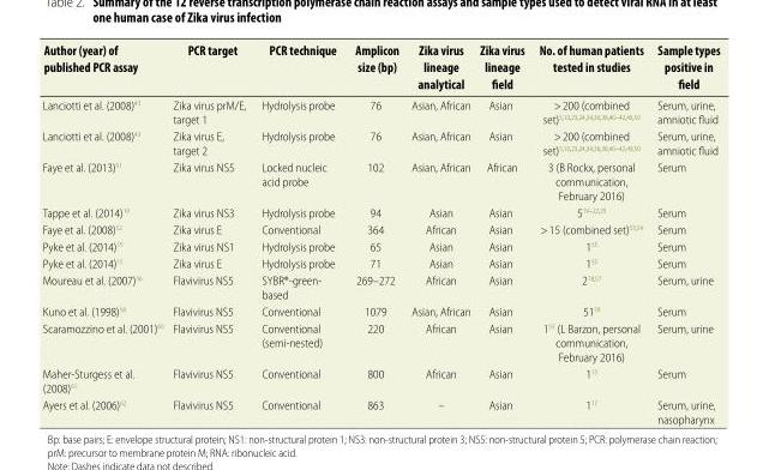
<table><thead><tr><td>Author (year) of published PCR assay</td><td>PCR target</td><td>PCR technique</td><td>Amplicon size (bp)</td><td>Zika virus lineage analytical</td><td>Zika virus lineage field</td><td>No. of human patients tested in studies</td><td>Sample types positive in field</td></tr></thead><tbody><tr><td>Lanciotti et al. (2008)<sup>43</sup></td><td>Zika virus prM/E, target 1</td><td>Hydrolysis probe</td><td>76</td><td>Asian, African</td><td>Asian</td><td>&gt; 200 (combined set)<sup>5,10,23,24,34,36,38,40–42,49,50</sup></td><td>Serum, urine, amniotic fluid</td></tr><tr><td>Lanciotti et al. (2008)<sup>43</sup></td><td>Zika virus E, target 2</td><td>Hydrolysis probe</td><td>76</td><td>Asian, African</td><td>Asian</td><td>&gt; 200 (combined set)<sup>5,10,23,24,34,36,38,40–42,49,50</sup></td><td>Serum, urine, amniotic fluid</td></tr><tr><td>Faye et al. (2013)<sup>51</sup></td><td>Zika virus NS5</td><td>Locked nucleic acid probe</td><td>102</td><td>Asian, African</td><td>African</td><td>3 (B Rockx, personal communication, February 2016)</td><td>Serum</td></tr><tr><td>Tappe et al. (2014)<sup>19</sup></td><td>Zika virus NS3</td><td>Hydrolysis probe</td><td>94</td><td>Asian</td><td>Asian</td><td>5<sup>19–22,25</sup></td><td>Serum</td></tr><tr><td>Faye et al. (2008)<sup>52</sup></td><td>Zika virus E</td><td>Conventional</td><td>364</td><td>African</td><td>Asian</td><td>&gt; 15 (combined set)<sup>53,54</sup></td><td>Serum</td></tr><tr><td>Pyke et al. (2014)<sup>15</sup></td><td>Zika virus NS1</td><td>Hydrolysis probe</td><td>65</td><td>Asian</td><td>Asian</td><td>1<sup>55</sup></td><td>Serum</td></tr><tr><td>Pyke et al. (2014)<sup>15</sup></td><td>Zika virus E</td><td>Hydrolysis probe</td><td>71</td><td>Asian</td><td>Asian</td><td>1<sup>55</sup></td><td>Serum</td></tr><tr><td>Moureau et al. (2007)<sup>56</sup></td><td>Flavivirus NS5</td><td>SYBR®-green- based</td><td>269–272</td><td>African</td><td>Asian</td><td>2<sup>18,57</sup></td><td>Serum, urine</td></tr><tr><td>Kuno et al. (1998)<sup>58</sup></td><td>Flavivirus NS5</td><td>Conventional</td><td>1079</td><td>Asian, African</td><td>Asian</td><td>51<sup>59</sup></td><td>Serum</td></tr><tr><td>Scaramozzino et al. (2001)<sup>60</sup></td><td>Flavivirus NS5</td><td>Conventional (semi-nested)</td><td>220</td><td>African</td><td>Asian</td><td>1<sup>55</sup> (L Barzon, personal communication, February 2016)</td><td>Serum, urine</td></tr><tr><td>Maher-Sturgess et al. (2008)<sup>61</sup></td><td>Flavivirus NS5</td><td>Conventional</td><td>800</td><td>African</td><td>Asian</td><td>1<sup>15</sup></td><td>Serum</td></tr><tr><td>Ayers et al. (2006)<sup>62</sup></td><td>Flavivirus NS5</td><td>Conventional</td><td>863</td><td>–</td><td>Asian</td><td>1<sup>17</sup></td><td>Serum, urine, nasopharynx</td></tr></tbody></table>